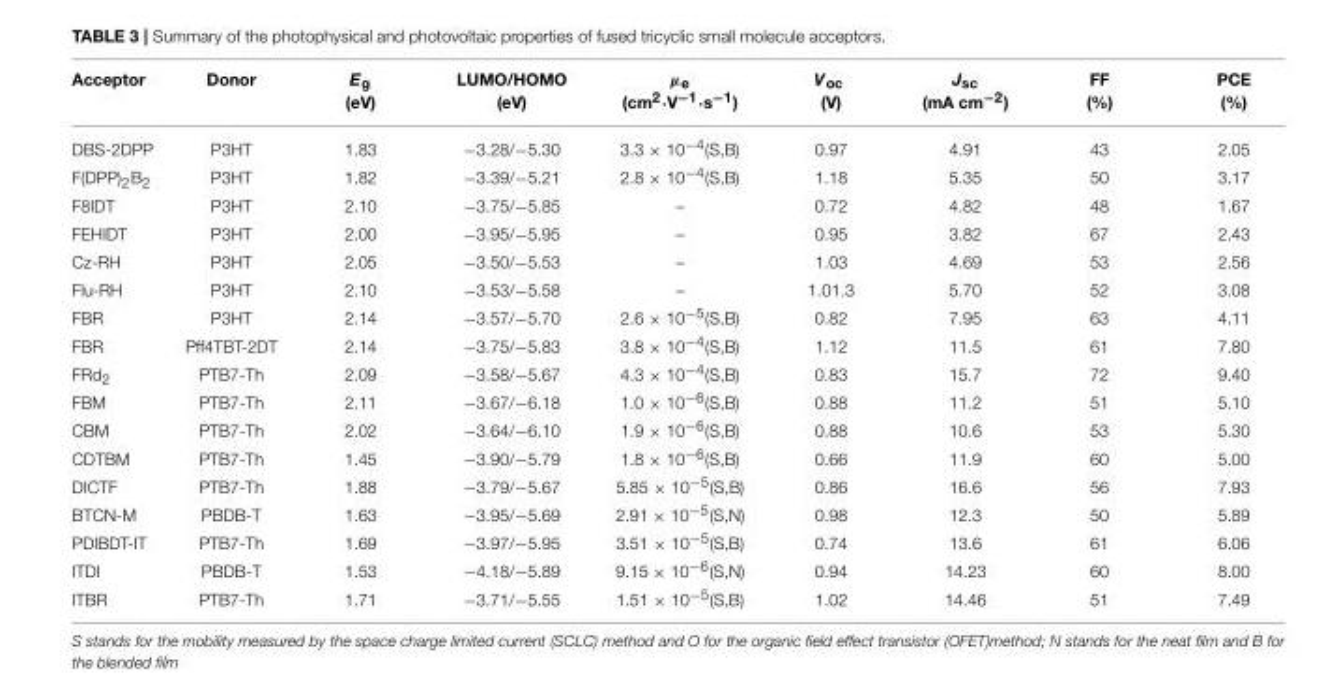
<table><thead><tr><td>Acceptor</td><td>Donor</td><td>E<sub>g</sub> (eV)</td><td>LUMO/HOMO (eV)</td><td>µ<sub>e</sub> (cm<sup>2</sup>·V<sup>−1</sup>·s<sup>−1</sup>)</td><td>V<sub>oc</sub> (V)</td><td>J<sub>sc</sub> (mA cm<sup>−2</sup>)</td><td>FF (%)</td><td>PCE (%)</td></tr></thead><tbody><tr><td>DBS-2DPP</td><td>P3HT</td><td>1.83</td><td>−3.28/−5.30</td><td>3.3 × 10<sup>−4</sup>(S,B)</td><td>0.97</td><td>4.91</td><td>43</td><td>2.05</td></tr><tr><td>F(DPP)<sub>2</sub>B<sub>2</sub></td><td>P3HT</td><td>1.82</td><td>−3.39/−5.21</td><td>2.8 × 10<sup>−4</sup>(S,B)</td><td>1.18</td><td>5.35</td><td>50</td><td>3.17</td></tr><tr><td>F8IDT</td><td>P3HT</td><td>2.10</td><td>−3.75/−5.85</td><td>–</td><td>0.72</td><td>4.82</td><td>48</td><td>1.67</td></tr><tr><td>FEHIDT</td><td>P3HT</td><td>2.00</td><td>−3.95/−5.95</td><td>–</td><td>0.95</td><td>3.82</td><td>67</td><td>2.43</td></tr><tr><td>Cz-RH</td><td>P3HT</td><td>2.05</td><td>−3.50/−5.53</td><td>–</td><td>1.03</td><td>4.69</td><td>53</td><td>2.56</td></tr><tr><td>Flu-RH</td><td>P3HT</td><td>2.10</td><td>−3.53/−5.58</td><td>–</td><td>1.01.3</td><td>5.70</td><td>52</td><td>3.08</td></tr><tr><td>FBR</td><td>P3HT</td><td>2.14</td><td>−3.57/−5.70</td><td>2.6 × 10<sup>−5</sup>(S,B)</td><td>0.82</td><td>7.95</td><td>63</td><td>4.11</td></tr><tr><td>FBR</td><td>Pff4TBT-2DT</td><td>2.14</td><td>−3.75/−5.83</td><td>3.8 × 10<sup>−4</sup>(S,B)</td><td>1.12</td><td>11.5</td><td>61</td><td>7.80</td></tr><tr><td>FRd<sub>2</sub></td><td>PTB7-Th</td><td>2.09</td><td>−3.58/−5.67</td><td>4.3 × 10<sup>−4</sup>(S,B)</td><td>0.83</td><td>15.7</td><td>72</td><td>9.40</td></tr><tr><td>FBM</td><td>PTB7-Th</td><td>2.11</td><td>−3.67/−6.18</td><td>1.0 × 10<sup>−6</sup>(S,B)</td><td>0.88</td><td>11.2</td><td>51</td><td>5.10</td></tr><tr><td>CBM</td><td>PTB7-Th</td><td>2.02</td><td>−3.64/−6.10</td><td>1.9 × 10<sup>−6</sup>(S,B)</td><td>0.88</td><td>10.6</td><td>53</td><td>5.30</td></tr><tr><td>CDTBM</td><td>PTB7-Th</td><td>1.45</td><td>−3.90/−5.79</td><td>1.8 × 10<sup>−6</sup>(S,B)</td><td>0.66</td><td>11.9</td><td>60</td><td>5.00</td></tr><tr><td>DICTF</td><td>PTB7-Th</td><td>1.88</td><td>−3.79/−5.67</td><td>5.85 × 10<sup>−5</sup>(S,B)</td><td>0.86</td><td>16.6</td><td>56</td><td>7.93</td></tr><tr><td>BTCN-M</td><td>PBDB-T</td><td>1.63</td><td>−3.95/−5.69</td><td>2.91 × 10<sup>−5</sup>(S,N)</td><td>0.98</td><td>12.3</td><td>50</td><td>5.89</td></tr><tr><td>PDIBDT-IT</td><td>PTB7-Th</td><td>1.69</td><td>−3.97/−5.95</td><td>3.51 × 10<sup>−5</sup>(S,B)</td><td>0.74</td><td>13.6</td><td>61</td><td>6.06</td></tr><tr><td>ITDI</td><td>PBDB-T</td><td>1.53</td><td>−4.18/−5.89</td><td>9.15 × 10<sup>−6</sup>(S,N)</td><td>0.94</td><td>14.23</td><td>60</td><td>8.00</td></tr><tr><td>ITBR</td><td>PTB7-Th</td><td>1.71</td><td>−3.71/−5.55</td><td>1.51 × 10<sup>−5</sup>(S,B)</td><td>1.02</td><td>14.46</td><td>51</td><td>7.49</td></tr></tbody></table>